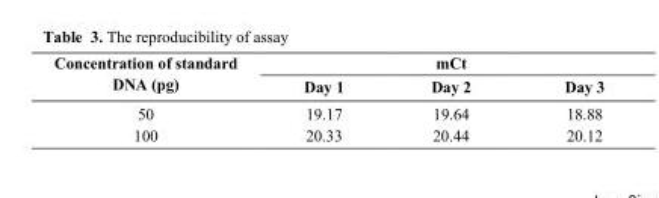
<table><thead><tr><td rowspan="2">Concentration of standard DNA (pg)</td><td rowspan="2">Day 1</td><td rowspan="2">mCt Day 2</td><td rowspan="2">Day 3</td></tr><tr></tr></thead><tbody><tr><td>50</td><td>19.17</td><td>19.64</td><td>18.88</td></tr><tr><td>100</td><td>20.33</td><td>20.44</td><td>20.12</td></tr></tbody></table>